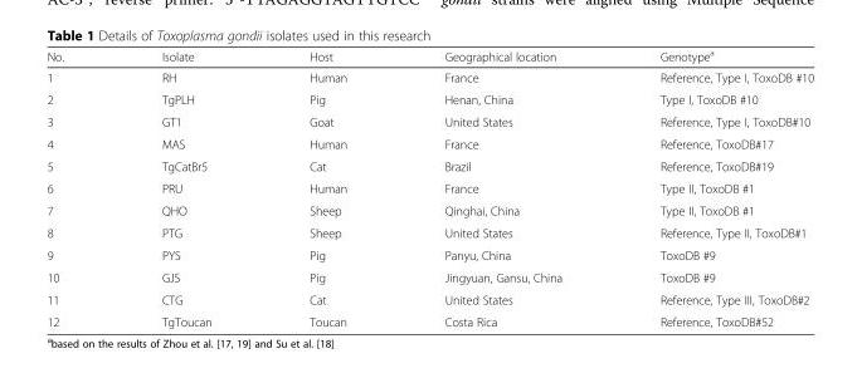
<table><thead><tr><td>No.</td><td>Isolate</td><td>Host</td><td>Geographical location</td><td>Genotype<sup>a</sup></td></tr></thead><tbody><tr><td>1</td><td>RH</td><td>Human</td><td>France</td><td>Reference, Type I, ToxoDB #10</td></tr><tr><td>2</td><td>TgPLH</td><td>Pig</td><td>Henan, China</td><td>Type I, ToxoDB #10</td></tr><tr><td>3</td><td>GT1</td><td>Goat</td><td>United States</td><td>Reference, Type I, ToxoDB#10</td></tr><tr><td>4</td><td>MAS</td><td>Human</td><td>France</td><td>Reference, ToxoDB#17</td></tr><tr><td>5</td><td>TgCatBr5</td><td>Cat</td><td>Brazil</td><td>Reference, ToxoDB#19</td></tr><tr><td>6</td><td>PRU</td><td>Human</td><td>France</td><td>Type II, ToxoDB #1</td></tr><tr><td>7</td><td>QHO</td><td>Sheep</td><td>Qinghai, China</td><td>Type II, ToxoDB #1</td></tr><tr><td>8</td><td>PTG</td><td>Sheep</td><td>United States</td><td>Reference, Type II, ToxoDB#1</td></tr><tr><td>9</td><td>PYS</td><td>Pig</td><td>Panyu, China</td><td>ToxoDB #9</td></tr><tr><td>10</td><td>GJS</td><td>Pig</td><td>Jingyuan, Gansu, China</td><td>ToxoDB #9</td></tr><tr><td>11</td><td>CTG</td><td>Cat</td><td>United States</td><td>Reference, Type III, ToxoDB#2</td></tr><tr><td>12</td><td>TgToucan</td><td>Toucan</td><td>Costa Rica</td><td>Reference, ToxoDB#52</td></tr></tbody></table>